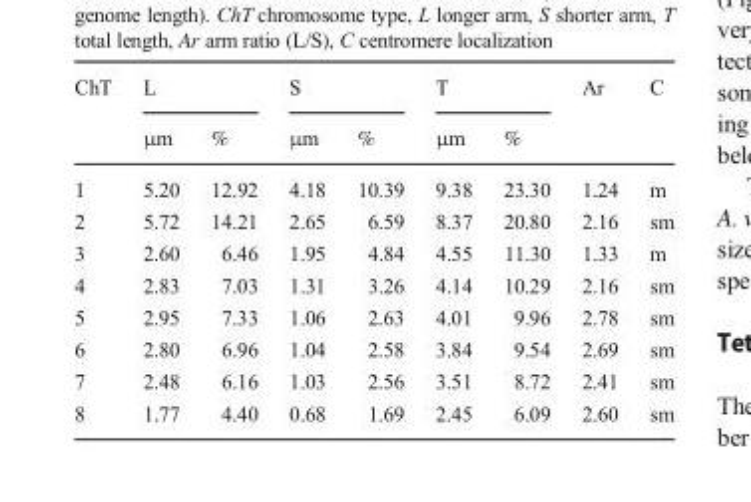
<table><thead><tr><td rowspan="2">ChT</td><td colspan="2">L</td><td colspan="2">S</td><td colspan="2">T</td><td rowspan="2">Ar</td><td rowspan="2">C</td></tr><tr><td>μm</td><td>%</td><td>μm</td><td>%</td><td>μm</td><td>%</td></tr></thead><tbody><tr><td>1</td><td>5.20</td><td>12.92</td><td>4.18</td><td>10.39</td><td>9.38</td><td>23.30</td><td>1.24</td><td>m</td></tr><tr><td>2</td><td>5.72</td><td>14.21</td><td>2.65</td><td>6.59</td><td>8.37</td><td>20.80</td><td>2.16</td><td>sm</td></tr><tr><td>3</td><td>2.60</td><td>6.46</td><td>1.95</td><td>4.84</td><td>4.55</td><td>11.30</td><td>1.33</td><td>m</td></tr><tr><td>4</td><td>2.83</td><td>7.03</td><td>1.31</td><td>3.26</td><td>4.14</td><td>10.29</td><td>2.16</td><td>sm</td></tr><tr><td>5</td><td>2.95</td><td>7.33</td><td>1.06</td><td>2.63</td><td>4.01</td><td>9.96</td><td>2.78</td><td>sm</td></tr><tr><td>6</td><td>2.80</td><td>6.96</td><td>1.04</td><td>2.58</td><td>3.84</td><td>9.54</td><td>2.69</td><td>sm</td></tr><tr><td>7</td><td>2.48</td><td>6.16</td><td>1.03</td><td>2.56</td><td>3.51</td><td>8.72</td><td>2.41</td><td>sm</td></tr><tr><td>8</td><td>1.77</td><td>4.40</td><td>0.68</td><td>1.69</td><td>2.45</td><td>6.09</td><td>2.60</td><td>sm</td></tr></tbody></table>